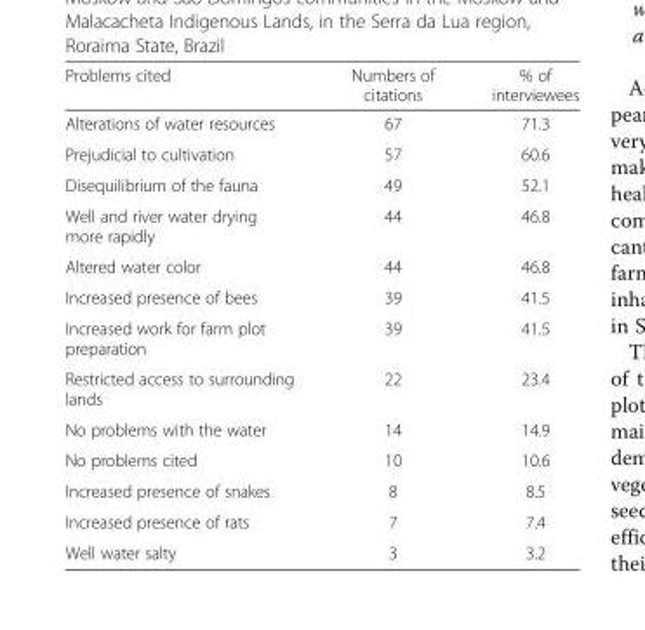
<table><thead><tr><td>Problems cited</td><td>Numbers of citations</td><td>% of interviewees</td></tr></thead><tbody><tr><td>Alterations of water resources</td><td>67</td><td>71.3</td></tr><tr><td>Prejudicial to cultivation</td><td>57</td><td>60.6</td></tr><tr><td>Disequilibrium of the fauna</td><td>49</td><td>52.1</td></tr><tr><td>Well and river water drying more rapidly</td><td>44</td><td>46.8</td></tr><tr><td>Altered water color</td><td>44</td><td>46.8</td></tr><tr><td>Increased presence of bees</td><td>39</td><td>41.5</td></tr><tr><td>Increased work for farm plot preparation</td><td>39</td><td>41.5</td></tr><tr><td>Restricted access to surrounding lands</td><td>22</td><td>23.4</td></tr><tr><td>No problems with the water</td><td>14</td><td>14.9</td></tr><tr><td>No problems cited</td><td>10</td><td>10.6</td></tr><tr><td>Increased presence of snakes</td><td>8</td><td>8.5</td></tr><tr><td>Increased presence of rats</td><td>7</td><td>7.4</td></tr><tr><td>Well water salty</td><td>3</td><td>3.2</td></tr></tbody></table>